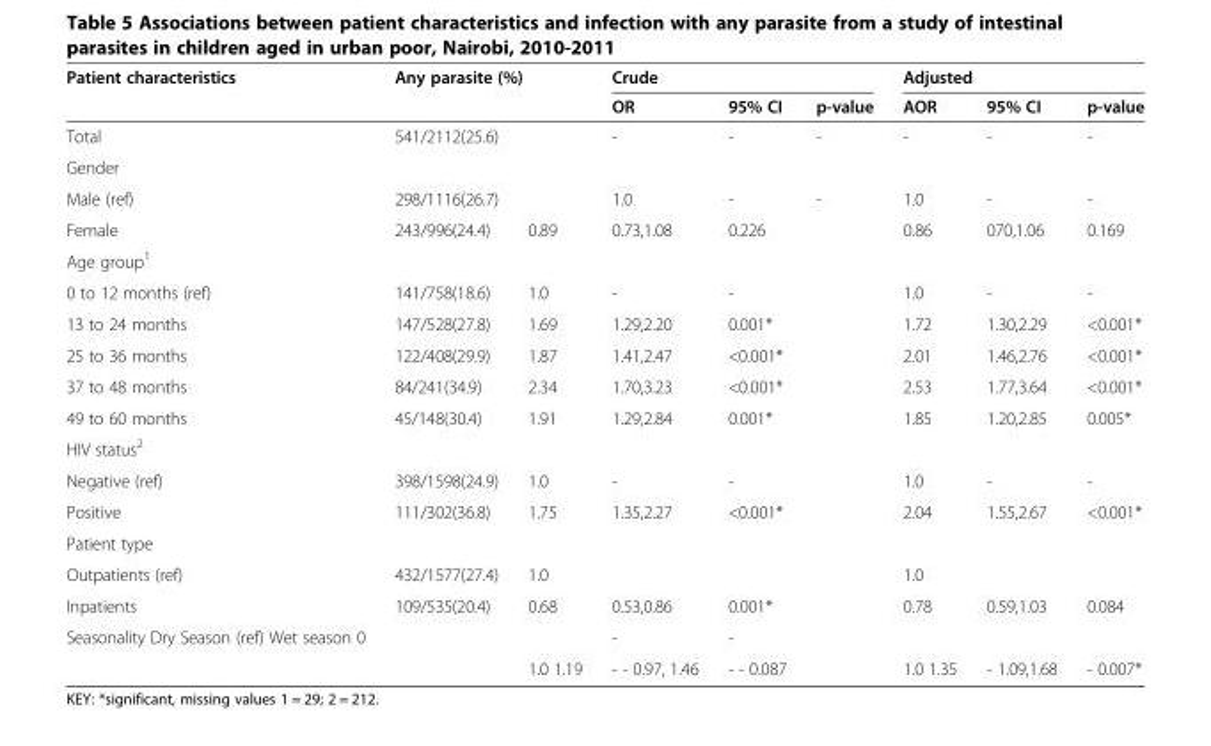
<table><thead><tr><td rowspan="2">Patient characteristics</td><td rowspan="2">Any parasite (%)</td><td rowspan="2"></td><td colspan="3">Crude</td><td colspan="3">Adjusted</td></tr><tr><td>OR</td><td>95% CI</td><td>p-value</td><td>AOR</td><td>95% CI</td><td>p-value</td></tr></thead><tbody><tr><td>Total</td><td colspan="2">541/2112(25.6)</td><td>-</td><td>-</td><td>-</td><td>-</td><td>-</td><td>-</td></tr><tr><td colspan="9">Gender</td></tr><tr><td>Male (ref)</td><td colspan="2">298/1116(26.7)</td><td>1.0</td><td>-</td><td>-</td><td>1.0</td><td>-</td><td>-</td></tr><tr><td>Female</td><td>243/996(24.4)</td><td>0.89</td><td>0.73,1.08</td><td>0.226</td><td></td><td>0.86</td><td>070,1.06</td><td>0.169</td></tr><tr><td colspan="9">Age group<sup>1</sup></td></tr><tr><td>0 to 12 months (ref)</td><td>141/758(18.6)</td><td>1.0</td><td>-</td><td>-</td><td></td><td>1.0</td><td>-</td><td>-</td></tr><tr><td>13 to 24 months</td><td>147/528(27.8)</td><td>1.69</td><td>1.29,2.20</td><td>0.001*</td><td></td><td>1.72</td><td>1.30,2.29</td><td>&lt;0.001*</td></tr><tr><td>25 to 36 months</td><td>122/408(29.9)</td><td>1.87</td><td>1.41,2.47</td><td>&lt;0.001*</td><td></td><td>2.01</td><td>1.46,2.76</td><td>&lt;0.001*</td></tr><tr><td>37 to 48 months</td><td>84/241(34.9)</td><td>2.34</td><td>1.70,3.23</td><td>&lt;0.001*</td><td></td><td>2.53</td><td>1.77,3.64</td><td>&lt;0.001*</td></tr><tr><td>49 to 60 months</td><td>45/148(30.4)</td><td>1.91</td><td>1.29,2.84</td><td>0.001*</td><td></td><td>1.85</td><td>1.20,2.85</td><td>0.005*</td></tr><tr><td colspan="9">HIV status<sup>2</sup></td></tr><tr><td>Negative (ref)</td><td>398/1598(24.9)</td><td>1.0</td><td>-</td><td>-</td><td></td><td>1.0</td><td>-</td><td>-</td></tr><tr><td>Positive</td><td>111/302(36.8)</td><td>1.75</td><td>1.35,2.27</td><td>&lt;0.001*</td><td></td><td>2.04</td><td>1.55,2.67</td><td>&lt;0.001*</td></tr><tr><td colspan="9">Patient type</td></tr><tr><td>Outpatients (ref)</td><td>432/1577(27.4)</td><td>1.0</td><td></td><td></td><td></td><td>1.0</td><td></td><td></td></tr><tr><td>Inpatients</td><td>109/535(20.4)</td><td>0.68</td><td>0.53,0.86</td><td>0.001*</td><td></td><td>0.78</td><td>0.59,1.03</td><td>0.084</td></tr><tr><td rowspan="2">Seasonality Dry Season (ref) Wet season 0</td><td></td><td></td><td>-</td><td>-</td><td></td><td></td><td></td><td></td></tr><tr><td></td><td>1.0 1.19</td><td>- - 0.97, 1.46</td><td>- - 0.087</td><td></td><td>1.0 1.35</td><td>- 1.09,1.68</td><td>- 0.007*</td></tr></tbody></table>